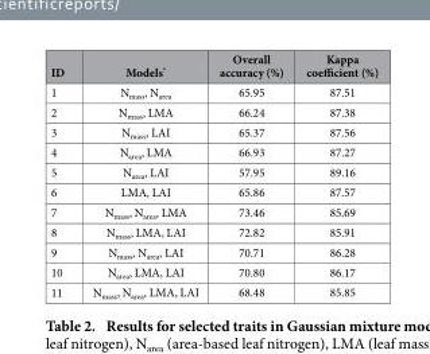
<table><thead><tr><td>ID</td><td>Models*</td><td>Overall accuracy (%)</td><td>Kappa coefficient (%)</td></tr></thead><tbody><tr><td>1</td><td>N<sub>mass</sub>, N<sub>area</sub></td><td>65.95</td><td>87.51</td></tr><tr><td>2</td><td>N<sub>mass</sub>, LMA</td><td>66.24</td><td>87.38</td></tr><tr><td>3</td><td>N<sub>mass</sub>, LAI</td><td>65.37</td><td>87.56</td></tr><tr><td>4</td><td>N<sub>area</sub>, LMA</td><td>66.93</td><td>87.27</td></tr><tr><td>5</td><td>N<sub>area</sub>, LAI</td><td>57.95</td><td>89.16</td></tr><tr><td>6</td><td>LMA, LAI</td><td>65.86</td><td>87.57</td></tr><tr><td>7</td><td>N<sub>mass</sub>, N<sub>area</sub>, LMA</td><td>73.46</td><td>85.69</td></tr><tr><td>8</td><td>N<sub>mass</sub>, LMA, LAI</td><td>72.82</td><td>85.91</td></tr><tr><td>9</td><td>N<sub>mass</sub>, N<sub>area</sub>, LAI</td><td>70.71</td><td>86.28</td></tr><tr><td>10</td><td>N<sub>area</sub>, LMA, LAI</td><td>70.80</td><td>86.17</td></tr><tr><td>11</td><td>N<sub>mass</sub>, N<sub>area</sub>, LMA, LAI</td><td>68.48</td><td>85.85</td></tr></tbody></table>